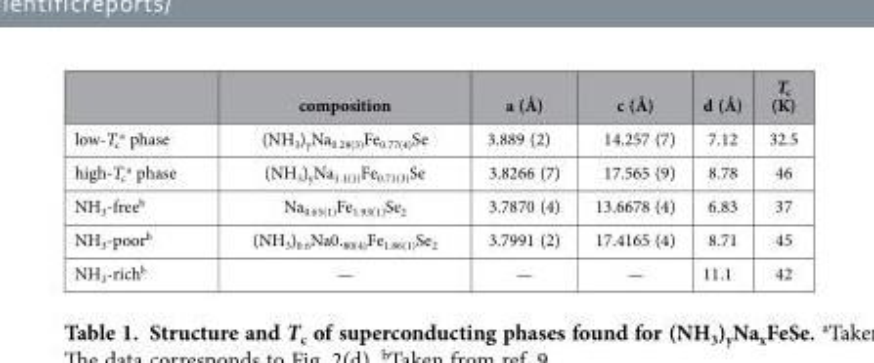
<table><thead><tr><td></td><td>composition</td><td>a (Å)</td><td>c (Å)</td><td>d (Å)</td><td>T<sub>c</sub> (K)</td></tr></thead><tbody><tr><td>low-T<sub>c</sub> <sup>a</sup> phase</td><td>(NH<sub>3</sub>)<sub>y</sub>Na<sub>0.28(3)</sub>Fe<sub>0.77(4)</sub>Se</td><td>3.889 (2)</td><td>14.257 (7)</td><td>7.12</td><td>32.5</td></tr><tr><td>high-T<sub>c</sub> <sup>a</sup> phase</td><td>(NH<sub>3</sub>)<sub>y</sub>Na<sub>1.1(1)</sub>Fe<sub>0.71(3)</sub>Se</td><td>3.8266 (7)</td><td>17.565 (9)</td><td>8.78</td><td>46</td></tr><tr><td>NH<sub>3</sub>-free<sup>b</sup></td><td>Na<sub>0.65(1)</sub>Fe<sub>1.93(1)</sub>Se<sub>2</sub></td><td>3.7870 (4)</td><td>13.6678 (4)</td><td>6.83</td><td>37</td></tr><tr><td>NH<sub>3</sub>-poor<sup>b</sup></td><td>(NH<sub>3</sub>)<sub>0.6</sub>Na0.<sub>80(4)</sub>Fe<sub>1.86(1)</sub>Se<sub>2</sub></td><td>3.7991 (2)</td><td>17.4165 (4)</td><td>8.71</td><td>45</td></tr><tr><td>NH<sub>3</sub>-rich<sup>b</sup></td><td>—</td><td>—</td><td>—</td><td>11.1</td><td>42</td></tr></tbody></table>